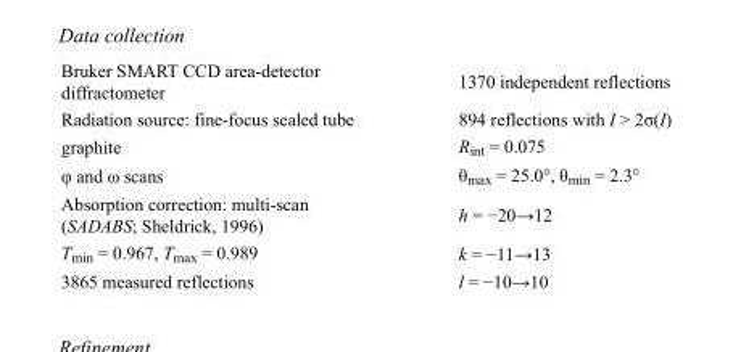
<table><tbody><tr><td>Bruker SMART CCD area-detector diffractometer</td><td>1370 independent reflections</td></tr><tr><td>Radiation source: fine-focus sealed tube</td><td>894 reflections with I &gt; 2σ(I)</td></tr><tr><td>graphite</td><td>R<sub>int</sub> = 0.075</td></tr><tr><td>φ and ω scans</td><td>θ<sub>max</sub> = 25.0°, θ<sub>min</sub> = 2.3°</td></tr><tr><td>Absorption correction: multi-scan (SADABS; Sheldrick, 1996)</td><td>h = −20→12</td></tr><tr><td>T<sub>min</sub> = 0.967, T<sub>max</sub> = 0.989</td><td>k = −11→13</td></tr><tr><td>3865 measured reflections</td><td>l = −10→10</td></tr></tbody></table>